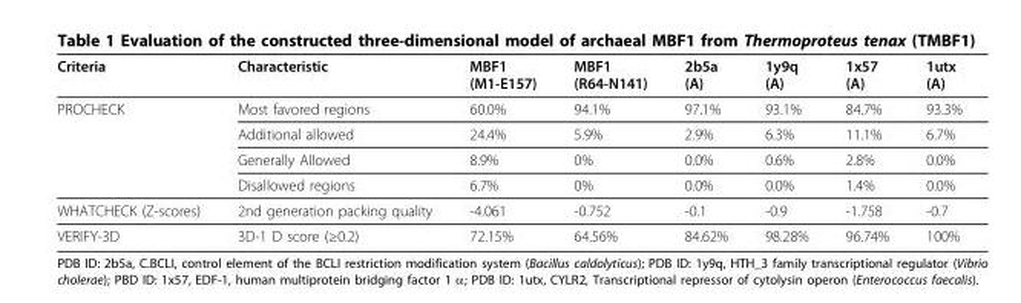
<table><thead><tr><td>Criteria</td><td>Characteristic</td><td>MBF1 (M1-E157)</td><td>MBF1 (R64-N141)</td><td>2b5a (A)</td><td>1y9q (A)</td><td>1x57 (A)</td><td>1utx (A)</td></tr></thead><tbody><tr><td rowspan="4">PROCHECK</td><td>Most favored regions</td><td>60.0%</td><td>94.1%</td><td>97.1%</td><td>93.1%</td><td>84.7%</td><td>93.3%</td></tr><tr><td>Additional allowed</td><td>24.4%</td><td>5.9%</td><td>2.9%</td><td>6.3%</td><td>11.1%</td><td>6.7%</td></tr><tr><td>Generally Allowed</td><td>8.9%</td><td>0%</td><td>0.0%</td><td>0.6%</td><td>2.8%</td><td>0.0%</td></tr><tr><td>Disallowed regions</td><td>6.7%</td><td>0%</td><td>0.0%</td><td>0.0%</td><td>1.4%</td><td>0.0%</td></tr><tr><td>WHATCHECK (Z-scores)</td><td>2nd generation packing quality</td><td>-4.061</td><td>-0.752</td><td>-0.1</td><td>-0.9</td><td>-1.758</td><td>-0.7</td></tr><tr><td>VERIFY-3D</td><td>3D-1 D score (≥0.2)</td><td>72.15%</td><td>64.56%</td><td>84.62%</td><td>98.28%</td><td>96.74%</td><td>100%</td></tr></tbody></table>